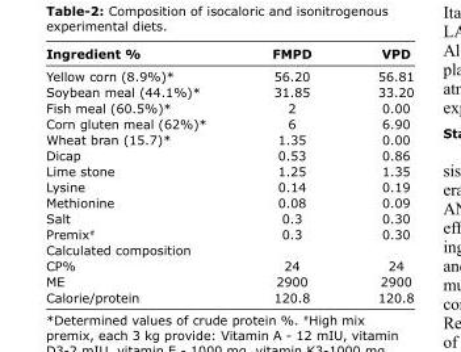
<table><thead><tr><td>Ingredient %</td><td>FMPD</td><td>VPD</td></tr></thead><tbody><tr><td>Yellow corn (8.9%)*</td><td>56.20</td><td>56.81</td></tr><tr><td>Soybean meal (44.1%)*</td><td>31.85</td><td>33.20</td></tr><tr><td>Fish meal (60.5%)*</td><td>2</td><td>0.00</td></tr><tr><td>Corn gluten meal (62%)*</td><td>6</td><td>6.90</td></tr><tr><td>Wheat bran (15.7)*</td><td>1.35</td><td>0.00</td></tr><tr><td>Dicap</td><td>0.53</td><td>0.86</td></tr><tr><td>Lime stone</td><td>1.25</td><td>1.35</td></tr><tr><td>Lysine</td><td>0.14</td><td>0.19</td></tr><tr><td>Methionine</td><td>0.08</td><td>0.09</td></tr><tr><td>Salt</td><td>0.3</td><td>0.30</td></tr><tr><td>Premix<sup>#</sup></td><td>0.3</td><td>0.30</td></tr><tr><td colspan="3">Calculated composition</td></tr><tr><td>CP%</td><td>24</td><td>24</td></tr><tr><td>ME</td><td>2900</td><td>2900</td></tr><tr><td>Calorie/protein</td><td>120.8</td><td>120.8</td></tr></tbody></table>